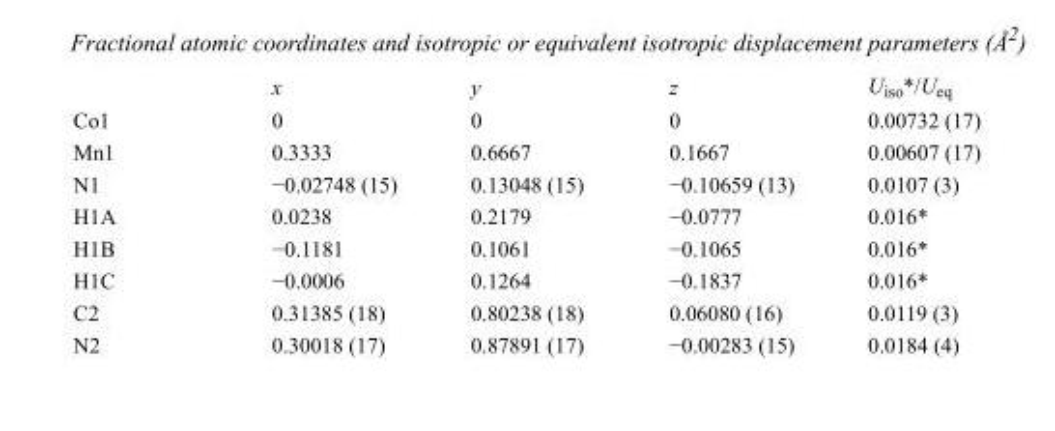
<table><thead><tr><td></td><td>x</td><td>y</td><td>z</td><td>U<sub>iso</sub>*/U<sub>eq</sub></td></tr></thead><tbody><tr><td>Co1</td><td>0</td><td>0</td><td>0</td><td>0.00732 (17)</td></tr><tr><td>Mn1</td><td>0.3333</td><td>0.6667</td><td>0.1667</td><td>0.00607 (17)</td></tr><tr><td>N1</td><td>−0.02748 (15)</td><td>0.13048 (15)</td><td>−0.10659 (13)</td><td>0.0107 (3)</td></tr><tr><td>H1A</td><td>0.0238</td><td>0.2179</td><td>−0.0777</td><td>0.016*</td></tr><tr><td>H1B</td><td>−0.1181</td><td>0.1061</td><td>−0.1065</td><td>0.016*</td></tr><tr><td>H1C</td><td>−0.0006</td><td>0.1264</td><td>−0.1837</td><td>0.016*</td></tr><tr><td>C2</td><td>0.31385 (18)</td><td>0.80238 (18)</td><td>0.06080 (16)</td><td>0.0119 (3)</td></tr><tr><td>N2</td><td>0.30018 (17)</td><td>0.87891 (17)</td><td>−0.00283 (15)</td><td>0.0184 (4)</td></tr></tbody></table>